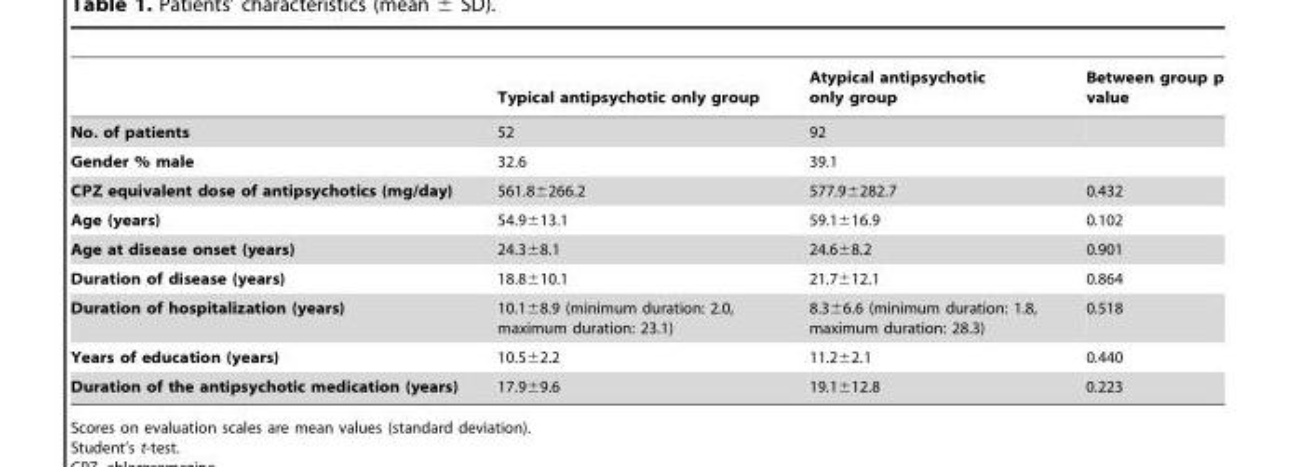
<table><thead><tr><td></td><td>Typical antipsychotic only group</td><td>Atypical antipsychotic only group</td><td>Between group p value</td></tr></thead><tbody><tr><td>No. of patients</td><td>52</td><td>92</td><td></td></tr><tr><td>Gender % male</td><td>32.6</td><td>39.1</td><td></td></tr><tr><td>CPZ equivalent dose of antipsychotics (mg/day)</td><td>561.8±266.2</td><td>577.9±282.7</td><td>0.432</td></tr><tr><td>Age (years)</td><td>54.9±13.1</td><td>59.1±16.9</td><td>0.102</td></tr><tr><td>Age at disease onset (years)</td><td>24.3±8.1</td><td>24.6±8.2</td><td>0.901</td></tr><tr><td>Duration of disease (years)</td><td>18.8±10.1</td><td>21.7±12.1</td><td>0.864</td></tr><tr><td>Duration of hospitalization (years)</td><td>10.1±8.9 (minimum duration: 2.0, maximum duration: 23.1)</td><td>8.3±6.6 (minimum duration: 1.8, maximum duration: 28.3)</td><td>0.518</td></tr><tr><td>Years of education (years)</td><td>10.5±2.2</td><td>11.2±2.1</td><td>0.440</td></tr><tr><td>Duration of the antipsychotic medication (years)</td><td>17.9±9.6</td><td>19.1±12.8</td><td>0.223</td></tr></tbody></table>